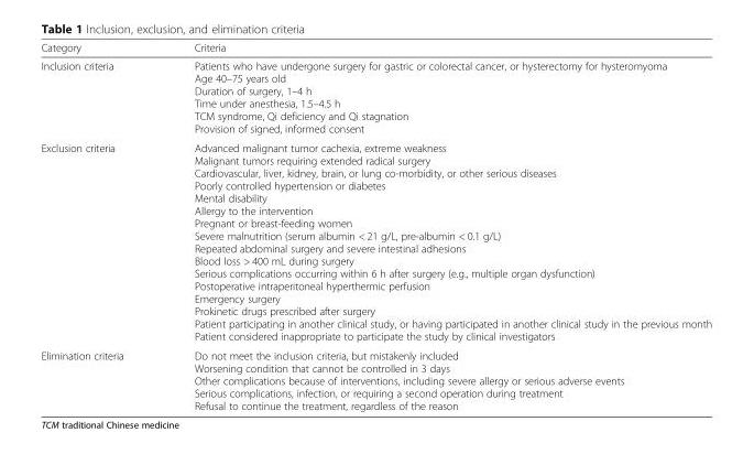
<table><thead><tr><td>Category</td><td>Criteria</td></tr></thead><tbody><tr><td>Inclusion criteria</td><td>Patients who have undergone surgery for gastric or colorectal cancer, or hysterectomy for hysteromyoma Age 40–75 years old Duration of surgery, 1–4 h Time under anesthesia, 1.5–4.5 h TCM syndrome, Qi deficiency and Qi stagnation Provision of signed, informed consent</td></tr><tr><td>Exclusion criteria</td><td>Advanced malignant tumor cachexia, extreme weakness Malignant tumors requiring extended radical surgery Cardiovascular, liver, kidney, brain, or lung co-morbidity, or other serious diseases Poorly controlled hypertension or diabetes Mental disability Allergy to the intervention Pregnant or breast-feeding women Severe malnutrition (serum albumin &lt; 21 g/L, pre-albumin &lt; 0.1 g/L) Repeated abdominal surgery and severe intestinal adhesions Blood loss &gt; 400 mL during surgery Serious complications occurring within 6 h after surgery (e.g., multiple organ dysfunction) Postoperative intraperitoneal hyperthermic perfusion Emergency surgery Prokinetic drugs prescribed after surgery Patient participating in another clinical study, or having participated in another clinical study in the previous month Patient considered inappropriate to participate the study by clinical investigators</td></tr><tr><td>Elimination criteria</td><td>Do not meet the inclusion criteria, but mistakenly included Worsening condition that cannot be controlled in 3 days Other complications because of interventions, including severe allergy or serious adverse events Serious complications, infection, or requiring a second operation during treatment Refusal to continue the treatment, regardless of the reason</td></tr></tbody></table>